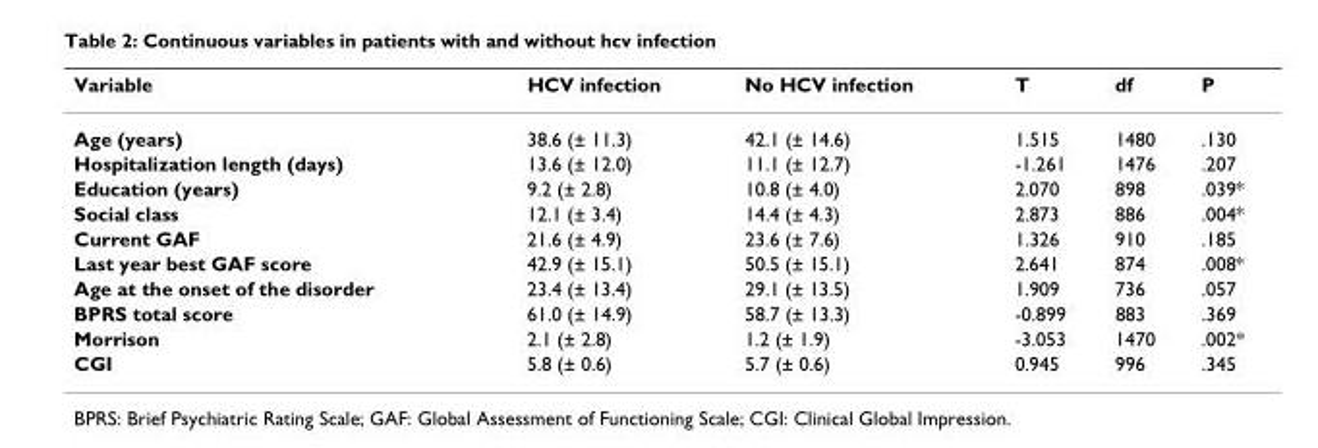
<table><thead><tr><td>Variable</td><td>HCV infection</td><td>No HCV infection</td><td>T</td><td>df</td><td>P</td></tr></thead><tbody><tr><td>Age (years)</td><td>38.6 (± 11.3)</td><td>42.1 (± 14.6)</td><td>1.515</td><td>1480</td><td>.130</td></tr><tr><td>Hospitalization length (days)</td><td>13.6 (± 12.0)</td><td>11.1 (± 12.7)</td><td>-1.261</td><td>1476</td><td>.207</td></tr><tr><td>Education (years)</td><td>9.2 (± 2.8)</td><td>10.8 (± 4.0)</td><td>2.070</td><td>898</td><td>.039*</td></tr><tr><td>Social class</td><td>12.1 (± 3.4)</td><td>14.4 (± 4.3)</td><td>2.873</td><td>886</td><td>.004*</td></tr><tr><td>Current GAF</td><td>21.6 (± 4.9)</td><td>23.6 (± 7.6)</td><td>1.326</td><td>910</td><td>.185</td></tr><tr><td>Last year best GAF score</td><td>42.9 (± 15.1)</td><td>50.5 (± 15.1)</td><td>2.641</td><td>874</td><td>.008*</td></tr><tr><td>Age at the onset of the disorder</td><td>23.4 (± 13.4)</td><td>29.1 (± 13.5)</td><td>1.909</td><td>736</td><td>.057</td></tr><tr><td>BPRS total score</td><td>61.0 (± 14.9)</td><td>58.7 (± 13.3)</td><td>-0.899</td><td>883</td><td>.369</td></tr><tr><td>Morrison</td><td>2.1 (± 2.8)</td><td>1.2 (± 1.9)</td><td>-3.053</td><td>1470</td><td>.002*</td></tr><tr><td>CGI</td><td>5.8 (± 0.6)</td><td>5.7 (± 0.6)</td><td>0.945</td><td>996</td><td>.345</td></tr></tbody></table>